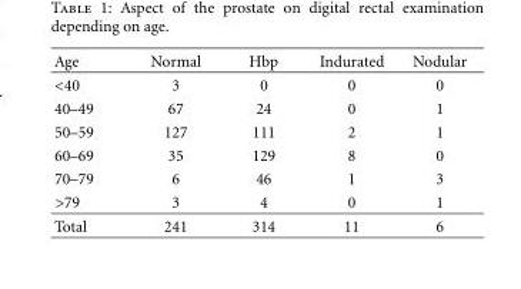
<table><thead><tr><td>Age</td><td>Normal</td><td>Hbp</td><td>Indurated</td><td>Nodular</td></tr></thead><tbody><tr><td>&lt;40</td><td>3</td><td>0</td><td>0</td><td>0</td></tr><tr><td>40–49</td><td>67</td><td>24</td><td>0</td><td>1</td></tr><tr><td>50–59</td><td>127</td><td>111</td><td>2</td><td>1</td></tr><tr><td>60–69</td><td>35</td><td>129</td><td>8</td><td>0</td></tr><tr><td>70–79</td><td>6</td><td>46</td><td>1</td><td>3</td></tr><tr><td>&gt;79</td><td>3</td><td>4</td><td>0</td><td>1</td></tr><tr><td>Total</td><td>241</td><td>314</td><td>11</td><td>6</td></tr></tbody></table>